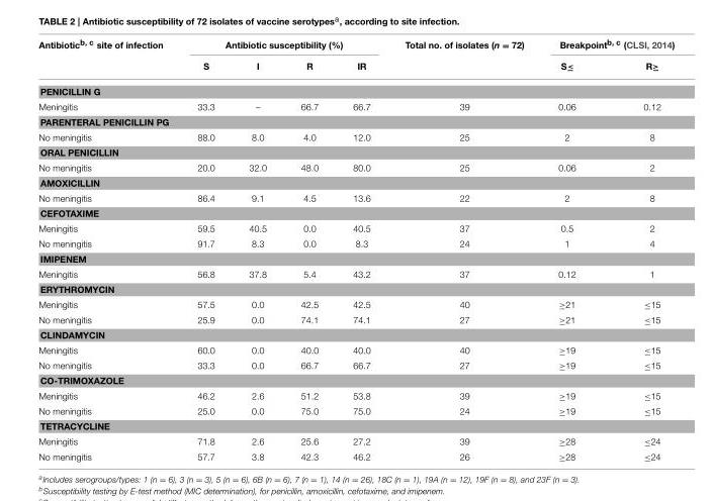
<table><thead><tr><td rowspan="2">Antibiotic<sup>b, c</sup> site of infection</td><td colspan="4">Antibiotic susceptibility (%)</td><td rowspan="2">Total no. of isolates (n = 72)</td><td colspan="2">Breakpoint<sup>b, c</sup> (CLSI, 2014)</td></tr><tr><td>S</td><td>I</td><td>R</td><td>IR</td><td>S≤</td><td>R≥</td></tr></thead><tbody><tr><td colspan="8">PENICILLIN G</td></tr><tr><td>Meningitis</td><td>33.3</td><td>–</td><td>66.7</td><td>66.7</td><td>39</td><td>0.06</td><td>0.12</td></tr><tr><td colspan="8">PARENTERAL PENICILLIN PG</td></tr><tr><td>No meningitis</td><td>88.0</td><td>8.0</td><td>4.0</td><td>12.0</td><td>25</td><td>2</td><td>8</td></tr><tr><td colspan="8">ORAL PENICILLIN</td></tr><tr><td>No meningitis</td><td>20.0</td><td>32.0</td><td>48.0</td><td>80.0</td><td>25</td><td>0.06</td><td>2</td></tr><tr><td colspan="8">AMOXICILLIN</td></tr><tr><td>No meningitis</td><td>86.4</td><td>9.1</td><td>4.5</td><td>13.6</td><td>22</td><td>2</td><td>8</td></tr><tr><td colspan="8">CEFOTAXIME</td></tr><tr><td>Meningitis</td><td>59.5</td><td>40.5</td><td>0.0</td><td>40.5</td><td>37</td><td>0.5</td><td>2</td></tr><tr><td>No meningitis</td><td>91.7</td><td>8.3</td><td>0.0</td><td>8.3</td><td>24</td><td>1</td><td>4</td></tr><tr><td colspan="8">IMIPENEM</td></tr><tr><td>Meningitis</td><td>56.8</td><td>37.8</td><td>5.4</td><td>43.2</td><td>37</td><td>0.12</td><td>1</td></tr><tr><td colspan="8">ERYTHROMYCIN</td></tr><tr><td>Meningitis</td><td>57.5</td><td>0.0</td><td>42.5</td><td>42.5</td><td>40</td><td>≥21</td><td>≤15</td></tr><tr><td>No meningitis</td><td>25.9</td><td>0.0</td><td>74.1</td><td>74.1</td><td>27</td><td>≥21</td><td>≤15</td></tr><tr><td colspan="8">CLINDAMYCIN</td></tr><tr><td>Meningitis</td><td>60.0</td><td>0.0</td><td>40.0</td><td>40.0</td><td>40</td><td>≥19</td><td>≤15</td></tr><tr><td>No meningitis</td><td>33.3</td><td>0.0</td><td>66.7</td><td>66.7</td><td>27</td><td>≥19</td><td>≤15</td></tr><tr><td colspan="8">CO-TRIMOXAZOLE</td></tr><tr><td>Meningitis</td><td>46.2</td><td>2.6</td><td>51.2</td><td>53.8</td><td>39</td><td>≥19</td><td>≤15</td></tr><tr><td>No meningitis</td><td>25.0</td><td>0.0</td><td>75.0</td><td>75.0</td><td>24</td><td>≥19</td><td>≤15</td></tr><tr><td colspan="8">TETRACYCLINE</td></tr><tr><td>Meningitis</td><td>71.8</td><td>2.6</td><td>25.6</td><td>27.2</td><td>39</td><td>≥28</td><td>≤24</td></tr><tr><td>No meningitis</td><td>57.7</td><td>3.8</td><td>42.3</td><td>46.2</td><td>26</td><td>≥28</td><td>≤24</td></tr></tbody></table>